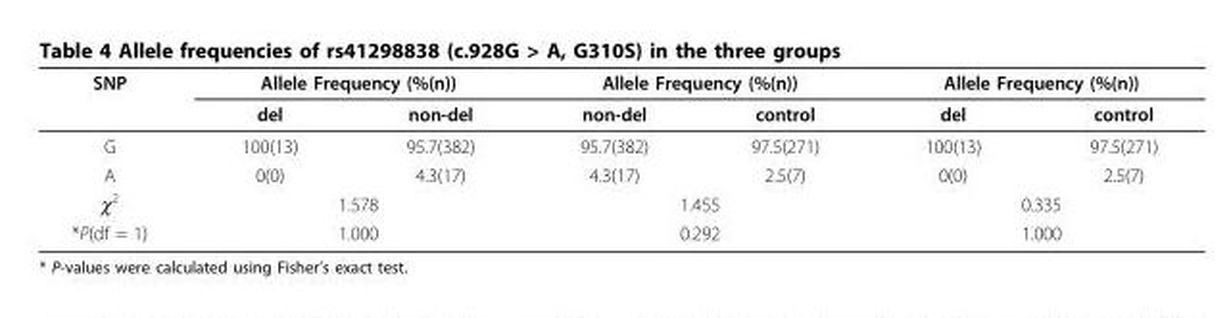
<table><thead><tr><td rowspan="2">SNP</td><td colspan="2">Allele Frequency (%(n))</td><td colspan="2">Allele Frequency (%(n))</td><td colspan="2">Allele Frequency (%(n))</td></tr><tr><td>del</td><td>non-del</td><td>non-del</td><td>control</td><td>del</td><td>control</td></tr></thead><tbody><tr><td>G</td><td>100(13)</td><td>95.7(382)</td><td>95.7(382)</td><td>97.5(271)</td><td>100(13)</td><td>97.5(271)</td></tr><tr><td>A</td><td>0(0)</td><td>4.3(17)</td><td>4.3(17)</td><td>2.5(7)</td><td>0(0)</td><td>2.5(7)</td></tr><tr><td>χ<sup>2</sup></td><td colspan="2">1.578</td><td colspan="2">1.455</td><td colspan="2">0.335</td></tr><tr><td>*P(df = 1)</td><td colspan="2">1.000</td><td colspan="2">0.292</td><td colspan="2">1.000</td></tr></tbody></table>